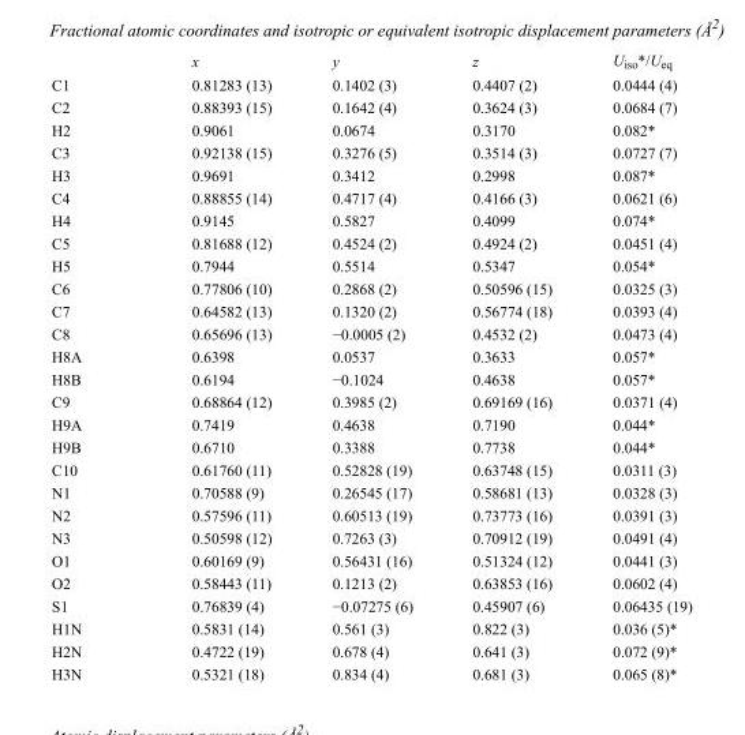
<table><thead><tr><td></td><td>x</td><td>y</td><td>z</td><td>U<sub>iso</sub>*/U<sub>eq</sub></td></tr></thead><tbody><tr><td>C1</td><td>0.81283 (13)</td><td>0.1402 (3)</td><td>0.4407 (2)</td><td>0.0444 (4)</td></tr><tr><td>C2</td><td>0.88393 (15)</td><td>0.1642 (4)</td><td>0.3624 (3)</td><td>0.0684 (7)</td></tr><tr><td>H2</td><td>0.9061</td><td>0.0674</td><td>0.3170</td><td>0.082*</td></tr><tr><td>C3</td><td>0.92138 (15)</td><td>0.3276 (5)</td><td>0.3514 (3)</td><td>0.0727 (7)</td></tr><tr><td>H3</td><td>0.9691</td><td>0.3412</td><td>0.2998</td><td>0.087*</td></tr><tr><td>C4</td><td>0.88855 (14)</td><td>0.4717 (4)</td><td>0.4166 (3)</td><td>0.0621 (6)</td></tr><tr><td>H4</td><td>0.9145</td><td>0.5827</td><td>0.4099</td><td>0.074*</td></tr><tr><td>C5</td><td>0.81688 (12)</td><td>0.4524 (2)</td><td>0.4924 (2)</td><td>0.0451 (4)</td></tr><tr><td>H5</td><td>0.7944</td><td>0.5514</td><td>0.5347</td><td>0.054*</td></tr><tr><td>C6</td><td>0.77806 (10)</td><td>0.2868 (2)</td><td>0.50596 (15)</td><td>0.0325 (3)</td></tr><tr><td>C7</td><td>0.64582 (13)</td><td>0.1320 (2)</td><td>0.56774 (18)</td><td>0.0393 (4)</td></tr><tr><td>C8</td><td>0.65696 (13)</td><td>−0.0005 (2)</td><td>0.4532 (2)</td><td>0.0473 (4)</td></tr><tr><td>H8A</td><td>0.6398</td><td>0.0537</td><td>0.3633</td><td>0.057*</td></tr><tr><td>H8B</td><td>0.6194</td><td>−0.1024</td><td>0.4638</td><td>0.057*</td></tr><tr><td>C9</td><td>0.68864 (12)</td><td>0.3985 (2)</td><td>0.69169 (16)</td><td>0.0371 (4)</td></tr><tr><td>H9A</td><td>0.7419</td><td>0.4638</td><td>0.7190</td><td>0.044*</td></tr><tr><td>H9B</td><td>0.6710</td><td>0.3388</td><td>0.7738</td><td>0.044*</td></tr><tr><td>C10</td><td>0.61760 (11)</td><td>0.52828 (19)</td><td>0.63748 (15)</td><td>0.0311 (3)</td></tr><tr><td>N1</td><td>0.70588 (9)</td><td>0.26545 (17)</td><td>0.58681 (13)</td><td>0.0328 (3)</td></tr><tr><td>N2</td><td>0.57596 (11)</td><td>0.60513 (19)</td><td>0.73773 (16)</td><td>0.0391 (3)</td></tr><tr><td>N3</td><td>0.50598 (12)</td><td>0.7263 (3)</td><td>0.70912 (19)</td><td>0.0491 (4)</td></tr><tr><td>O1</td><td>0.60169 (9)</td><td>0.56431 (16)</td><td>0.51324 (12)</td><td>0.0441 (3)</td></tr><tr><td>O2</td><td>0.58443 (11)</td><td>0.1213 (2)</td><td>0.63853 (16)</td><td>0.0602 (4)</td></tr><tr><td>S1</td><td>0.76839 (4)</td><td>−0.07275 (6)</td><td>0.45907 (6)</td><td>0.06435 (19)</td></tr><tr><td>H1N</td><td>0.5831 (14)</td><td>0.561 (3)</td><td>0.822 (3)</td><td>0.036 (5)*</td></tr><tr><td>H2N</td><td>0.4722 (19)</td><td>0.678 (4)</td><td>0.641 (3)</td><td>0.072 (9)*</td></tr><tr><td>H3N</td><td>0.5321 (18)</td><td>0.834 (4)</td><td>0.681 (3)</td><td>0.065 (8)*</td></tr></tbody></table>